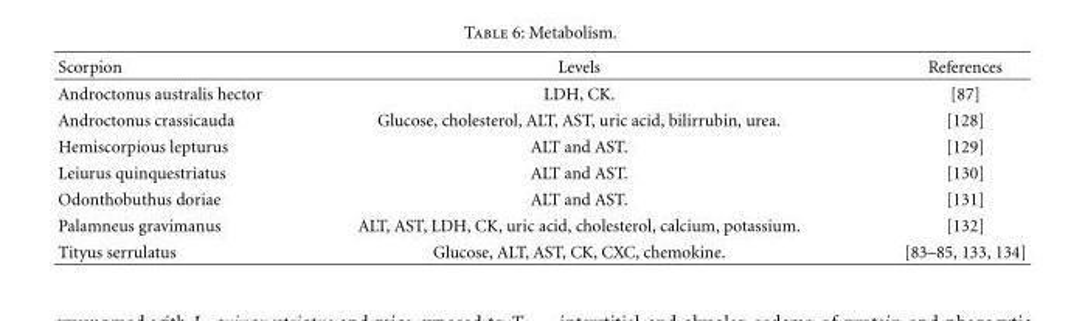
<table><thead><tr><td>Scorpion</td><td>Levels</td><td>References</td></tr></thead><tbody><tr><td>Androctonus australis hector</td><td>LDH, CK.</td><td>[87]</td></tr><tr><td>Androctonus crassicauda</td><td>Glucose, cholesterol, ALT, AST, uric acid, bilirrubin, urea.</td><td>[128]</td></tr><tr><td>Hemiscorpious lepturus</td><td>ALT and AST.</td><td>[129]</td></tr><tr><td>Leiurus quinquestriatus</td><td>ALT and AST.</td><td>[130]</td></tr><tr><td>Odonthobuthus doriae</td><td>ALT and AST.</td><td>[131]</td></tr><tr><td>Palamneus gravimanus</td><td>ALT, AST, LDH, CK, uric acid, cholesterol, calcium, potassium.</td><td>[132]</td></tr><tr><td>Tityus serrulatus</td><td>Glucose, ALT, AST, CK, CXC, chemokine.</td><td>[83–85, 133, 134]</td></tr></tbody></table>